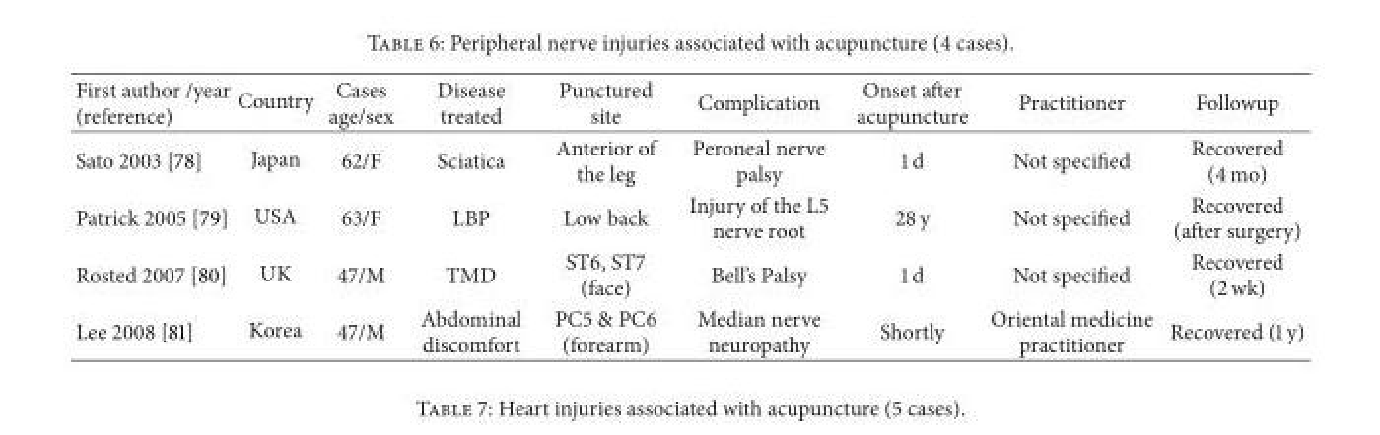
<table><thead><tr><td>First author /year (reference)</td><td>Country</td><td>Cases age/sex</td><td>Disease treated</td><td>Punctured site</td><td>Complication</td><td>Onset after acupuncture</td><td>Practitioner</td><td>Followup</td></tr></thead><tbody><tr><td>Sato 2003 [78]</td><td>Japan</td><td>62/F</td><td>Sciatica</td><td>Anterior of the leg</td><td>Peroneal nerve palsy</td><td>1 d</td><td>Not specified</td><td>Recovered (4 mo)</td></tr><tr><td>Patrick 2005 [79]</td><td>USA</td><td>63/F</td><td>LBP</td><td>Low back</td><td>Injury of the L5 nerve root</td><td>28 y</td><td>Not specified</td><td>Recovered (after surgery)</td></tr><tr><td>Rosted 2007 [80]</td><td>UK</td><td>47/M</td><td>TMD</td><td>ST6, ST7 (face)</td><td>Bell’s Palsy</td><td>1 d</td><td>Not specified</td><td>Recovered (2 wk)</td></tr><tr><td>Lee 2008 [81]</td><td>Korea</td><td>47/M</td><td>Abdominal discomfort</td><td>PC5 &amp; PC6 (forearm)</td><td>Median nerve neuropathy</td><td>Shortly</td><td>Oriental medicine practitioner</td><td>Recovered (1 y)</td></tr></tbody></table>